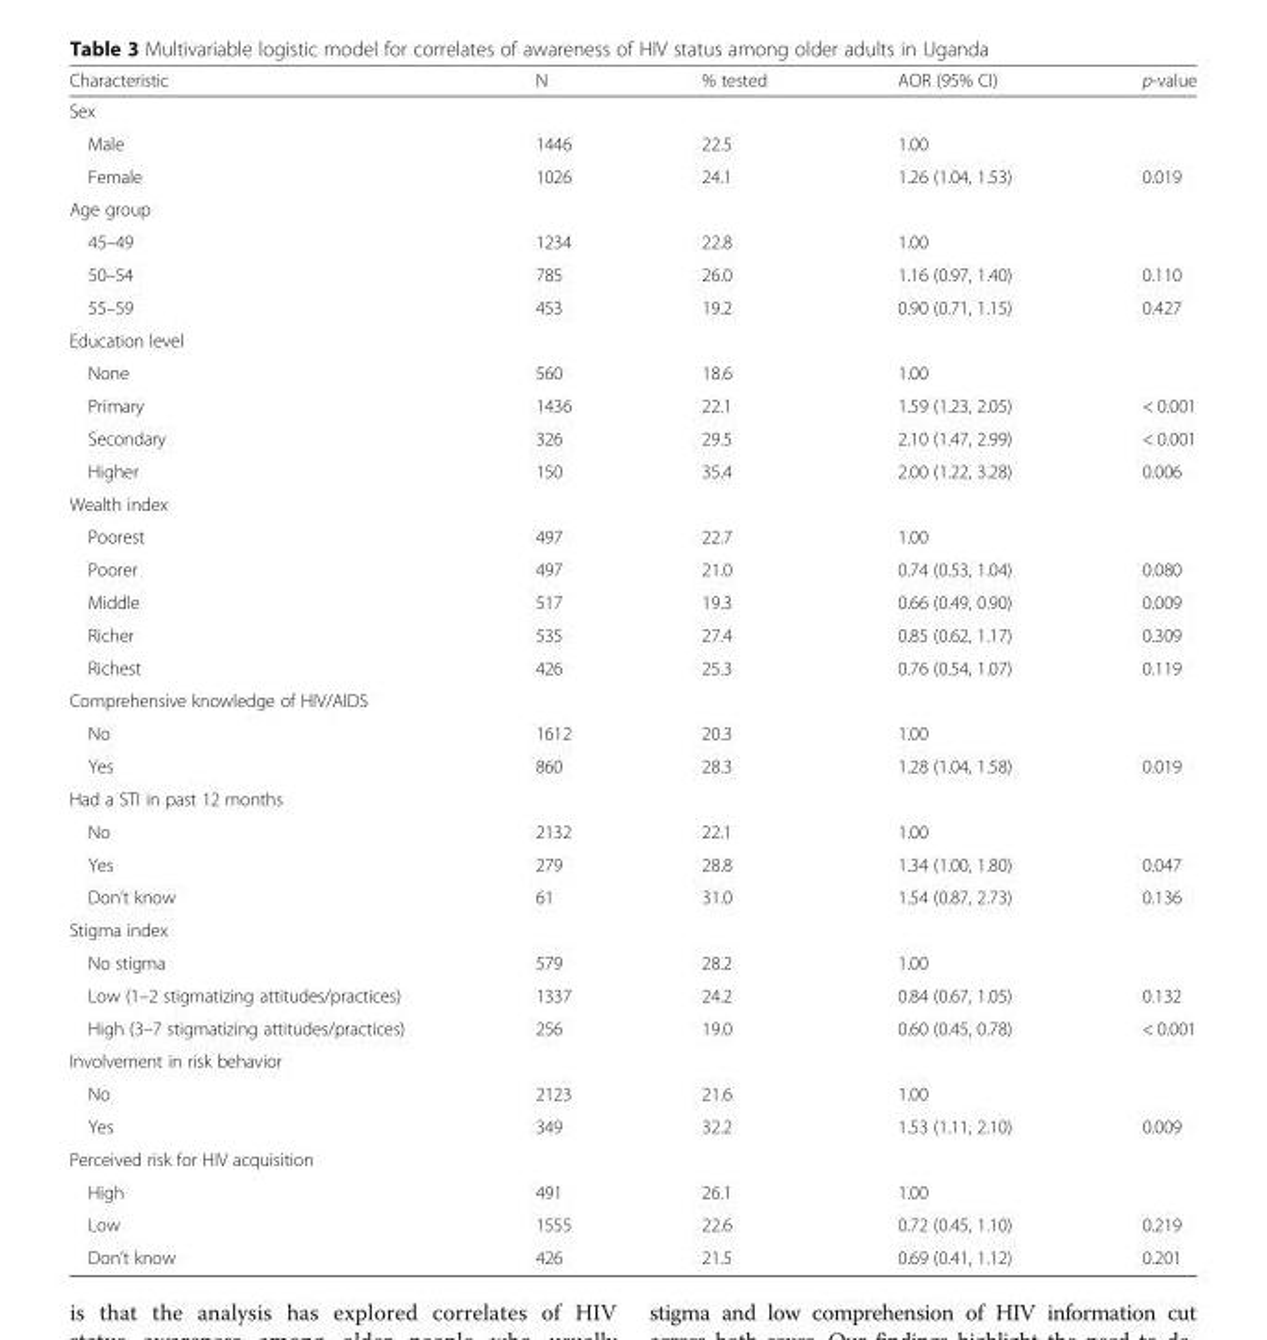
<table><thead><tr><td>Characteristic</td><td>N</td><td>% tested</td><td>AOR (95% CI)</td><td>p-value</td></tr></thead><tbody><tr><td colspan="5">Sex</td></tr><tr><td>Male</td><td>1446</td><td>22.5</td><td>1.00</td><td></td></tr><tr><td>Female</td><td>1026</td><td>24.1</td><td>1.26 (1.04, 1.53)</td><td>0.019</td></tr><tr><td colspan="5">Age group</td></tr><tr><td>45–49</td><td>1234</td><td>22.8</td><td>1.00</td><td></td></tr><tr><td>50–54</td><td>785</td><td>26.0</td><td>1.16 (0.97, 1.40)</td><td>0.110</td></tr><tr><td>55–59</td><td>453</td><td>19.2</td><td>0.90 (0.71, 1.15)</td><td>0.427</td></tr><tr><td colspan="5">Education level</td></tr><tr><td>None</td><td>560</td><td>18.6</td><td>1.00</td><td></td></tr><tr><td>Primary</td><td>1436</td><td>22.1</td><td>1.59 (1.23, 2.05)</td><td>&lt; 0.001</td></tr><tr><td>Secondary</td><td>326</td><td>29.5</td><td>2.10 (1.47, 2.99)</td><td>&lt; 0.001</td></tr><tr><td>Higher</td><td>150</td><td>35.4</td><td>2.00 (1.22, 3.28)</td><td>0.006</td></tr><tr><td colspan="5">Wealth index</td></tr><tr><td>Poorest</td><td>497</td><td>22.7</td><td>1.00</td><td></td></tr><tr><td>Poorer</td><td>497</td><td>21.0</td><td>0.74 (0.53, 1.04)</td><td>0.080</td></tr><tr><td>Middle</td><td>517</td><td>19.3</td><td>0.66 (0.49, 0.90)</td><td>0.009</td></tr><tr><td>Richer</td><td>535</td><td>27.4</td><td>0.85 (0.62, 1.17)</td><td>0.309</td></tr><tr><td>Richest</td><td>426</td><td>25.3</td><td>0.76 (0.54, 1.07)</td><td>0.119</td></tr><tr><td colspan="5">Comprehensive knowledge of HIV/AIDS</td></tr><tr><td>No</td><td>1612</td><td>20.3</td><td>1.00</td><td></td></tr><tr><td>Yes</td><td>860</td><td>28.3</td><td>1.28 (1.04, 1.58)</td><td>0.019</td></tr><tr><td colspan="5">Had a STI in past 12 months</td></tr><tr><td>No</td><td>2132</td><td>22.1</td><td>1.00</td><td></td></tr><tr><td>Yes</td><td>279</td><td>28.8</td><td>1.34 (1.00, 1.80)</td><td>0.047</td></tr><tr><td>Don’t know</td><td>61</td><td>31.0</td><td>1.54 (0.87, 2.73)</td><td>0.136</td></tr><tr><td colspan="5">Stigma index</td></tr><tr><td>No stigma</td><td>579</td><td>28.2</td><td>1.00</td><td></td></tr><tr><td>Low (1–2 stigmatizing attitudes/practices)</td><td>1337</td><td>24.2</td><td>0.84 (0.67, 1.05)</td><td>0.132</td></tr><tr><td>High (3–7 stigmatizing attitudes/practices)</td><td>256</td><td>19.0</td><td>0.60 (0.45, 0.78)</td><td>&lt; 0.001</td></tr><tr><td colspan="5">Involvement in risk behavior</td></tr><tr><td>No</td><td>2123</td><td>21.6</td><td>1.00</td><td></td></tr><tr><td>Yes</td><td>349</td><td>32.2</td><td>1.53 (1.11, 2.10)</td><td>0.009</td></tr><tr><td colspan="5">Perceived risk for HIV acquisition</td></tr><tr><td>High</td><td>491</td><td>26.1</td><td>1.00</td><td></td></tr><tr><td>Low</td><td>1555</td><td>22.6</td><td>0.72 (0.45, 1.10)</td><td>0.219</td></tr><tr><td>Don’t know</td><td>426</td><td>21.5</td><td>0.69 (0.41, 1.12)</td><td>0.201</td></tr></tbody></table>